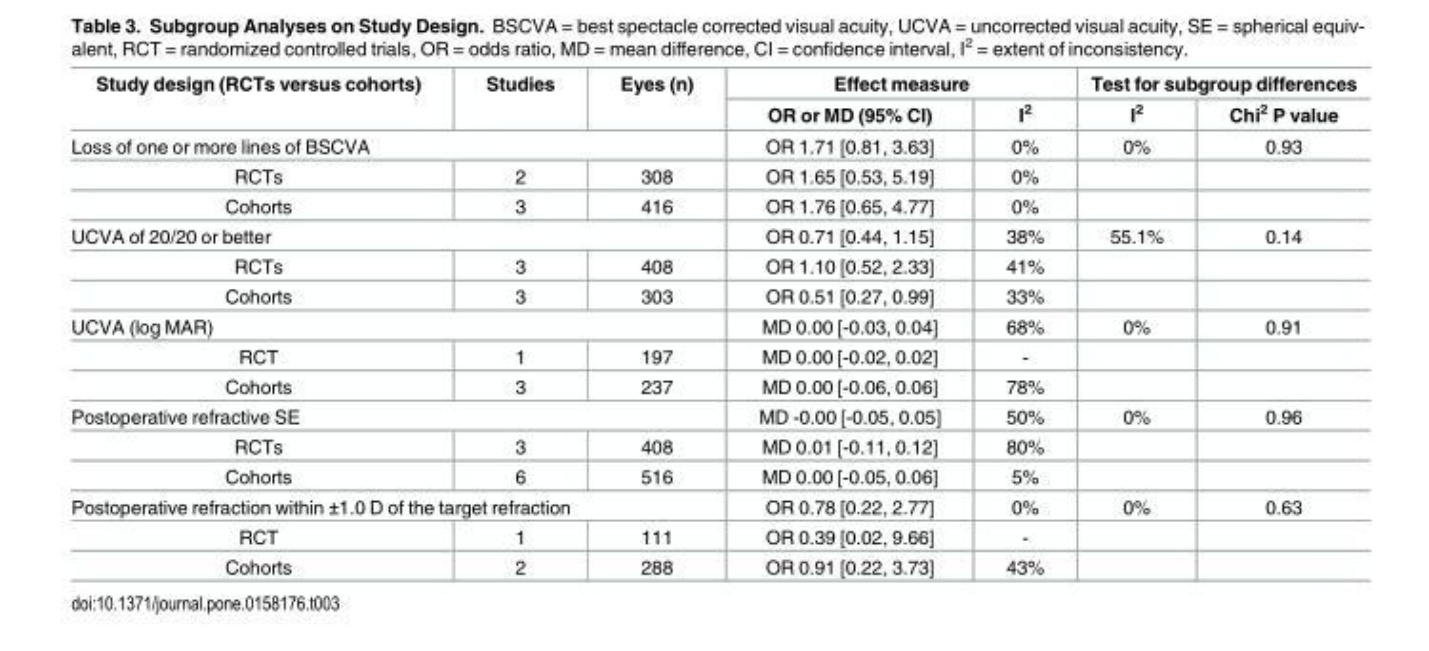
<table><thead><tr><td rowspan="2">Study design (RCTs versus cohorts)</td><td rowspan="2">Studies</td><td rowspan="2">Eyes (n)</td><td colspan="2">Effect measure</td><td colspan="2">Test for subgroup differences</td></tr><tr><td>OR or MD (95% CI)</td><td>I<sup>2</sup></td><td>I<sup>2</sup></td><td>Chi<sup>2</sup> P value</td></tr></thead><tbody><tr><td colspan="3">Loss of one or more lines of BSCVA</td><td>OR 1.71 [0.81, 3.63]</td><td>0%</td><td>0%</td><td>0.93</td></tr><tr><td>RCTs</td><td>2</td><td>308</td><td>OR 1.65 [0.53, 5.19]</td><td>0%</td><td></td><td></td></tr><tr><td>Cohorts</td><td>3</td><td>416</td><td>OR 1.76 [0.65, 4.77]</td><td>0%</td><td></td><td></td></tr><tr><td colspan="3">UCVA of 20/20 or better</td><td>OR 0.71 [0.44, 1.15]</td><td>38%</td><td>55.1%</td><td>0.14</td></tr><tr><td>RCTs</td><td>3</td><td>408</td><td>OR 1.10 [0.52, 2.33]</td><td>41%</td><td></td><td></td></tr><tr><td>Cohorts</td><td>3</td><td>303</td><td>OR 0.51 [0.27, 0.99]</td><td>33%</td><td></td><td></td></tr><tr><td colspan="3">UCVA (log MAR)</td><td>MD 0.00 [-0.03, 0.04]</td><td>68%</td><td>0%</td><td>0.91</td></tr><tr><td>RCT</td><td>1</td><td>197</td><td>MD 0.00 [-0.02, 0.02]</td><td>-</td><td></td><td></td></tr><tr><td>Cohorts</td><td>3</td><td>237</td><td>MD 0.00 [-0.06, 0.06]</td><td>78%</td><td></td><td></td></tr><tr><td colspan="3">Postoperative refractive SE</td><td>MD -0.00 [-0.05, 0.05]</td><td>50%</td><td>0%</td><td>0.96</td></tr><tr><td>RCTs</td><td>3</td><td>408</td><td>MD 0.01 [-0.11, 0.12]</td><td>80%</td><td></td><td></td></tr><tr><td>Cohorts</td><td>6</td><td>516</td><td>MD 0.00 [-0.05, 0.06]</td><td>5%</td><td></td><td></td></tr><tr><td colspan="3">Postoperative refraction within ±1.0 D of the target refraction</td><td>OR 0.78 [0.22, 2.77]</td><td>0%</td><td>0%</td><td>0.63</td></tr><tr><td>RCT</td><td>1</td><td>111</td><td>OR 0.39 [0.02, 9.66]</td><td>-</td><td></td><td></td></tr><tr><td>Cohorts</td><td>2</td><td>288</td><td>OR 0.91 [0.22, 3.73]</td><td>43%</td><td></td><td></td></tr></tbody></table>